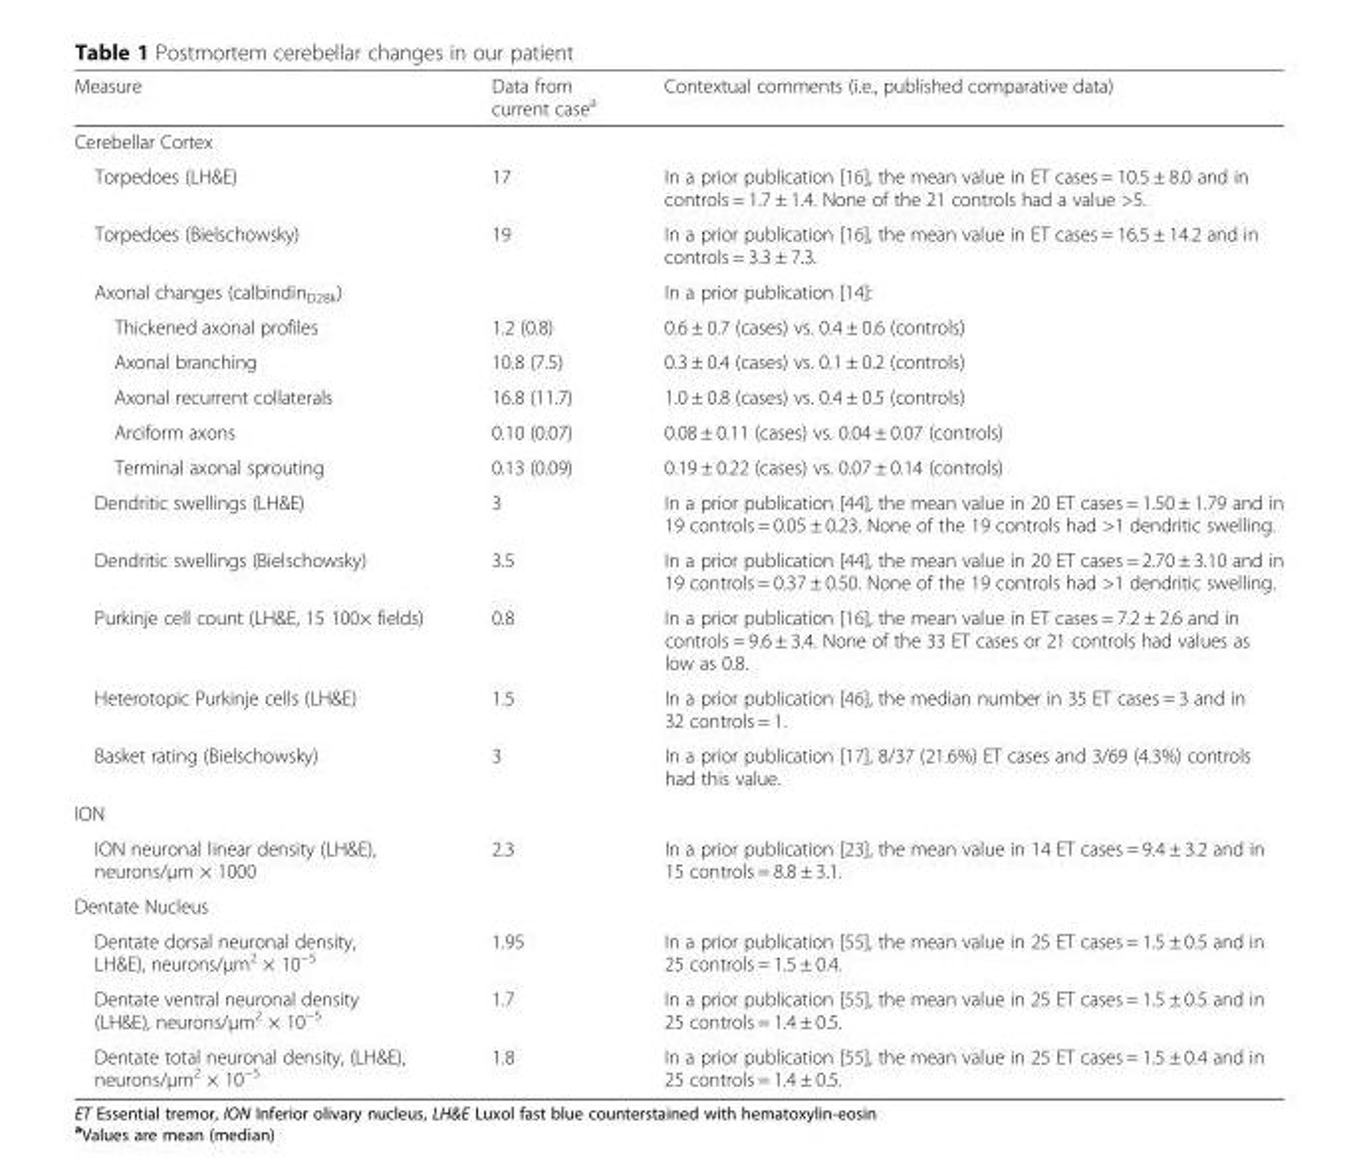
<table><thead><tr><td>Measure</td><td>Data from current case<sup>a</sup></td><td>Contextual comments (i.e., published comparative data)</td></tr></thead><tbody><tr><td colspan="3">Cerebellar Cortex</td></tr><tr><td>Torpedoes (LH&amp;E)</td><td>17</td><td>In a prior publication [16], the mean value in ET cases = 10.5 ± 8.0 and in controls = 1.7 ± 1.4. None of the 21 controls had a value &gt;5.</td></tr><tr><td>Torpedoes (Bielschowsky)</td><td>19</td><td>In a prior publication [16], the mean value in ET cases = 16.5 ± 14.2 and in controls = 3.3 ± 7.3.</td></tr><tr><td>Axonal changes (calbindin<sub>D28k</sub>)</td><td></td><td>In a prior publication [14]:</td></tr><tr><td>Thickened axonal profiles</td><td>1.2 (0.8)</td><td>0.6 ± 0.7 (cases) vs. 0.4 ± 0.6 (controls)</td></tr><tr><td>Axonal branching</td><td>10.8 (7.5)</td><td>0.3 ± 0.4 (cases) vs. 0.1 ± 0.2 (controls)</td></tr><tr><td>Axonal recurrent collaterals</td><td>16.8 (11.7)</td><td>1.0 ± 0.8 (cases) vs. 0.4 ± 0.5 (controls)</td></tr><tr><td>Arciform axons</td><td>0.10 (0.07)</td><td>0.08 ± 0.11 (cases) vs. 0.04 ± 0.07 (controls)</td></tr><tr><td>Terminal axonal sprouting</td><td>0.13 (0.09)</td><td>0.19 ± 0.22 (cases) vs. 0.07 ± 0.14 (controls)</td></tr><tr><td>Dendritic swellings (LH&amp;E)</td><td>3</td><td>In a prior publication [44], the mean value in 20 ET cases = 1.50 ± 1.79 and in 19 controls = 0.05 ± 0.23. None of the 19 controls had &gt;1 dendritic swelling.</td></tr><tr><td>Dendritic swellings (Bielschowsky)</td><td>3.5</td><td>In a prior publication [44], the mean value in 20 ET cases = 2.70 ± 3.10 and in 19 controls = 0.37 ± 0.50. None of the 19 controls had &gt;1 dendritic swelling.</td></tr><tr><td>Purkinje cell count (LH&amp;E, 15 100× fields)</td><td>0.8</td><td>In a prior publication [16], the mean value in ET cases = 7.2 ± 2.6 and in controls = 9.6 ± 3.4. None of the 33 ET cases or 21 controls had values as low as 0.8.</td></tr><tr><td>Heterotopic Purkinje cells (LH&amp;E)</td><td>1.5</td><td>In a prior publication [46], the median number in 35 ET cases = 3 and in 32 controls = 1.</td></tr><tr><td>Basket rating (Bielschowsky)</td><td>3</td><td>In a prior publication [17], 8/37 (21.6%) ET cases and 3/69 (4.3%) controls had this value.</td></tr><tr><td colspan="3">ION</td></tr><tr><td>ION neuronal linear density (LH&amp;E), neurons/μm × 1000</td><td>2.3</td><td>In a prior publication [23], the mean value in 14 ET cases = 9.4 ± 3.2 and in 15 controls = 8.8 ± 3.1.</td></tr><tr><td colspan="3">Dentate Nucleus</td></tr><tr><td>Dentate dorsal neuronal density, LH&amp;E), neurons/μm<sup>2</sup> × 10<sup>−5</sup></td><td>1.95</td><td>In a prior publication [55], the mean value in 25 ET cases = 1.5 ± 0.5 and in 25 controls = 1.5 ± 0.4.</td></tr><tr><td>Dentate ventral neuronal density (LH&amp;E), neurons/μm<sup>2</sup> × 10<sup>−5</sup></td><td>1.7</td><td>In a prior publication [55], the mean value in 25 ET cases = 1.5 ± 0.5 and in 25 controls = 1.4 ± 0.5.</td></tr><tr><td>Dentate total neuronal density, (LH&amp;E), neurons/μm<sup>2</sup> × 10<sup>−5</sup></td><td>1.8</td><td>In a prior publication [55], the mean value in 25 ET cases = 1.5 ± 0.4 and in 25 controls = 1.4 ± 0.5.</td></tr></tbody></table>